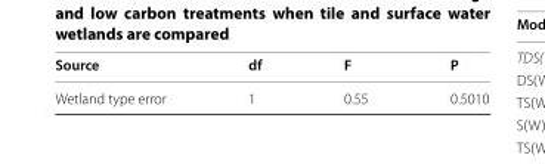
<table><thead><tr><td>Source</td><td>df</td><td>F</td><td>P</td></tr></thead><tbody><tr><td>Wetland type error</td><td>1</td><td>0.55</td><td>0.5010</td></tr></tbody></table>